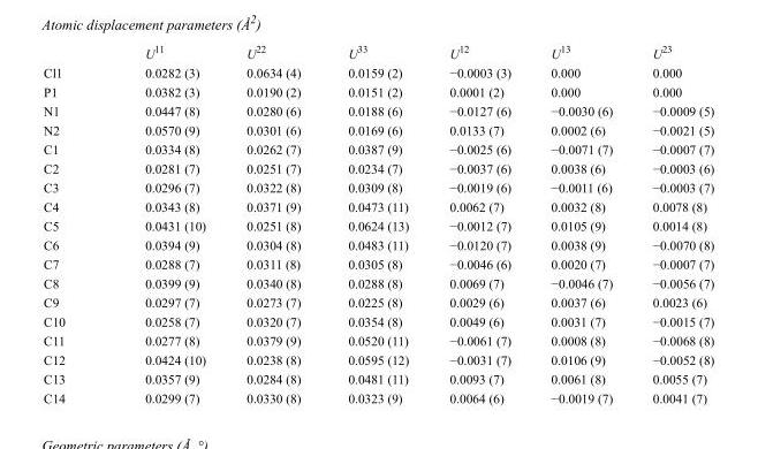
<table><thead><tr><td></td><td>U<sup>11</sup></td><td>U<sup>22</sup></td><td>U<sup>33</sup></td><td>U<sup>12</sup></td><td>U<sup>13</sup></td><td>U<sup>23</sup></td></tr></thead><tbody><tr><td>Cl1</td><td>0.0282 (3)</td><td>0.0634 (4)</td><td>0.0159 (2)</td><td>−0.0003 (3)</td><td>0.000</td><td>0.000</td></tr><tr><td>P1</td><td>0.0382 (3)</td><td>0.0190 (2)</td><td>0.0151 (2)</td><td>0.0001 (2)</td><td>0.000</td><td>0.000</td></tr><tr><td>N1</td><td>0.0447 (8)</td><td>0.0280 (6)</td><td>0.0188 (6)</td><td>−0.0127 (6)</td><td>−0.0030 (6)</td><td>−0.0009 (5)</td></tr><tr><td>N2</td><td>0.0570 (9)</td><td>0.0301 (6)</td><td>0.0169 (6)</td><td>0.0133 (7)</td><td>0.0002 (6)</td><td>−0.0021 (5)</td></tr><tr><td>C1</td><td>0.0334 (8)</td><td>0.0262 (7)</td><td>0.0387 (9)</td><td>−0.0025 (6)</td><td>−0.0071 (7)</td><td>−0.0007 (7)</td></tr><tr><td>C2</td><td>0.0281 (7)</td><td>0.0251 (7)</td><td>0.0234 (7)</td><td>−0.0037 (6)</td><td>0.0038 (6)</td><td>−0.0003 (6)</td></tr><tr><td>C3</td><td>0.0296 (7)</td><td>0.0322 (8)</td><td>0.0309 (8)</td><td>−0.0019 (6)</td><td>−0.0011 (6)</td><td>−0.0003 (7)</td></tr><tr><td>C4</td><td>0.0343 (8)</td><td>0.0371 (9)</td><td>0.0473 (11)</td><td>0.0062 (7)</td><td>0.0032 (8)</td><td>0.0078 (8)</td></tr><tr><td>C5</td><td>0.0431 (10)</td><td>0.0251 (8)</td><td>0.0624 (13)</td><td>−0.0012 (7)</td><td>0.0105 (9)</td><td>0.0014 (8)</td></tr><tr><td>C6</td><td>0.0394 (9)</td><td>0.0304 (8)</td><td>0.0483 (11)</td><td>−0.0120 (7)</td><td>0.0038 (9)</td><td>−0.0070 (8)</td></tr><tr><td>C7</td><td>0.0288 (7)</td><td>0.0311 (8)</td><td>0.0305 (8)</td><td>−0.0046 (6)</td><td>0.0020 (7)</td><td>−0.0007 (7)</td></tr><tr><td>C8</td><td>0.0399 (9)</td><td>0.0340 (8)</td><td>0.0288 (8)</td><td>0.0069 (7)</td><td>−0.0046 (7)</td><td>−0.0056 (7)</td></tr><tr><td>C9</td><td>0.0297 (7)</td><td>0.0273 (7)</td><td>0.0225 (8)</td><td>0.0029 (6)</td><td>0.0037 (6)</td><td>0.0023 (6)</td></tr><tr><td>C10</td><td>0.0258 (7)</td><td>0.0320 (7)</td><td>0.0354 (8)</td><td>0.0049 (6)</td><td>0.0031 (7)</td><td>−0.0015 (7)</td></tr><tr><td>C11</td><td>0.0277 (8)</td><td>0.0379 (9)</td><td>0.0520 (11)</td><td>−0.0061 (7)</td><td>0.0008 (8)</td><td>−0.0068 (8)</td></tr><tr><td>C12</td><td>0.0424 (10)</td><td>0.0238 (8)</td><td>0.0595 (12)</td><td>−0.0031 (7)</td><td>0.0106 (9)</td><td>−0.0052 (8)</td></tr><tr><td>C13</td><td>0.0357 (9)</td><td>0.0284 (8)</td><td>0.0481 (11)</td><td>0.0093 (7)</td><td>0.0061 (8)</td><td>0.0055 (7)</td></tr><tr><td>C14</td><td>0.0299 (7)</td><td>0.0330 (8)</td><td>0.0323 (9)</td><td>0.0064 (6)</td><td>−0.0019 (7)</td><td>0.0041 (7)</td></tr></tbody></table>